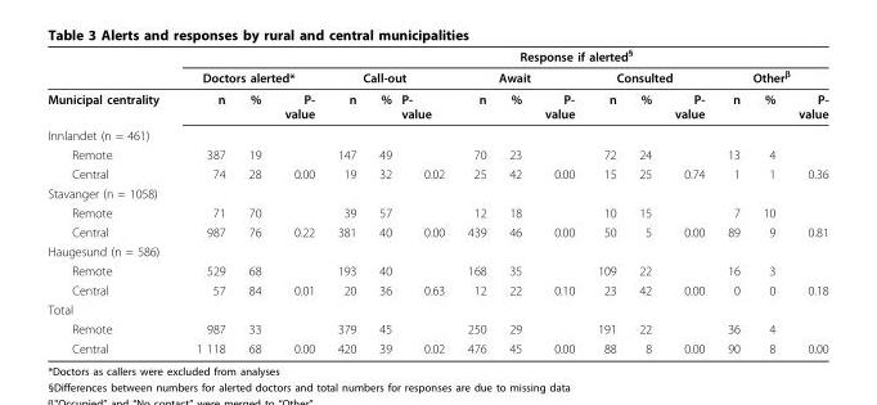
<table><thead><tr><td rowspan="3">Municipal centrality</td><td></td><td></td><td></td><td colspan="12">Response if alerted<sup>§</sup></td></tr><tr><td colspan="3">Doctors alerted*</td><td colspan="3">Call-out</td><td colspan="3">Await</td><td colspan="3">Consulted</td><td colspan="3">Other<sup>β</sup></td></tr><tr><td>n</td><td>%</td><td>P- value</td><td>n</td><td>%</td><td>P- value</td><td>n</td><td>%</td><td>P- value</td><td>n</td><td>%</td><td>P- value</td><td>n</td><td>%</td><td>P- value</td></tr></thead><tbody><tr><td colspan="16">Innlandet (n = 461)</td></tr><tr><td>Remote</td><td>387</td><td>19</td><td></td><td>147</td><td>49</td><td></td><td>70</td><td>23</td><td></td><td>72</td><td>24</td><td></td><td>13</td><td>4</td><td></td></tr><tr><td>Central</td><td>74</td><td>28</td><td>0.00</td><td>19</td><td>32</td><td>0.02</td><td>25</td><td>42</td><td>0.00</td><td>15</td><td>25</td><td>0.74</td><td>1</td><td>1</td><td>0.36</td></tr><tr><td colspan="16">Stavanger (n = 1058)</td></tr><tr><td>Remote</td><td>71</td><td>70</td><td></td><td>39</td><td>57</td><td></td><td>12</td><td>18</td><td></td><td>10</td><td>15</td><td></td><td>7</td><td>10</td><td></td></tr><tr><td>Central</td><td>987</td><td>76</td><td>0.22</td><td>381</td><td>40</td><td>0.00</td><td>439</td><td>46</td><td>0.00</td><td>50</td><td>5</td><td>0.00</td><td>89</td><td>9</td><td>0.81</td></tr><tr><td colspan="16">Haugesund (n = 586)</td></tr><tr><td>Remote</td><td>529</td><td>68</td><td></td><td>193</td><td>40</td><td></td><td>168</td><td>35</td><td></td><td>109</td><td>22</td><td></td><td>16</td><td>3</td><td></td></tr><tr><td>Central</td><td>57</td><td>84</td><td>0.01</td><td>20</td><td>36</td><td>0.63</td><td>12</td><td>22</td><td>0.10</td><td>23</td><td>42</td><td>0.00</td><td>0</td><td>0</td><td>0.18</td></tr><tr><td colspan="16">Total</td></tr><tr><td>Remote</td><td>987</td><td>33</td><td></td><td>379</td><td>45</td><td></td><td>250</td><td>29</td><td></td><td>191</td><td>22</td><td></td><td>36</td><td>4</td><td></td></tr><tr><td>Central</td><td>1 118</td><td>68</td><td>0.00</td><td>420</td><td>39</td><td>0.02</td><td>476</td><td>45</td><td>0.00</td><td>88</td><td>8</td><td>0.00</td><td>90</td><td>8</td><td>0.00</td></tr></tbody></table>